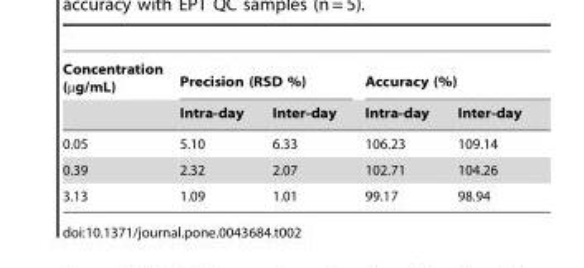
<table><thead><tr><td rowspan="2">Concentration (µg/mL)</td><td colspan="2">Precision (RSD %)</td><td colspan="2">Accuracy (%)</td></tr><tr><td>Intra-day</td><td>Inter-day</td><td>Intra-day</td><td>Inter-day</td></tr></thead><tbody><tr><td>0.05</td><td>5.10</td><td>6.33</td><td>106.23</td><td>109.14</td></tr><tr><td>0.39</td><td>2.32</td><td>2.07</td><td>102.71</td><td>104.26</td></tr><tr><td>3.13</td><td>1.09</td><td>1.01</td><td>99.17</td><td>98.94</td></tr></tbody></table>